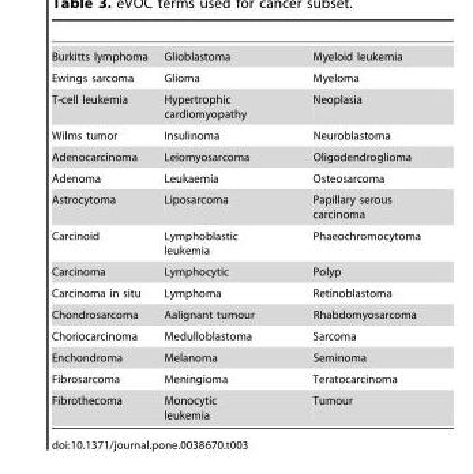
<table><tbody><tr><td>Burkitts lymphoma</td><td>Glioblastoma</td><td>Myeloid leukemia</td></tr><tr><td>Ewings sarcoma</td><td>Glioma</td><td>Myeloma</td></tr><tr><td>T-cell leukemia</td><td>Hypertrophic cardiomyopathy</td><td>Neoplasia</td></tr><tr><td>Wilms tumor</td><td>Insulinoma</td><td>Neuroblastoma</td></tr><tr><td>Adenocarcinoma</td><td>Leiomyosarcoma</td><td>Oligodendroglioma</td></tr><tr><td>Adenoma</td><td>Leukaemia</td><td>Osteosarcoma</td></tr><tr><td>Astrocytoma</td><td>Liposarcoma</td><td>Papillary serous carcinoma</td></tr><tr><td>Carcinoid</td><td>Lymphoblastic leukemia</td><td>Phaeochromocytoma</td></tr><tr><td>Carcinoma</td><td>Lymphocytic</td><td>Polyp</td></tr><tr><td>Carcinoma in situ</td><td>Lymphoma</td><td>Retinoblastoma</td></tr><tr><td>Chondrosarcoma</td><td>Aalignant tumour</td><td>Rhabdomyosarcoma</td></tr><tr><td>Choriocarcinoma</td><td>Medulloblastoma</td><td>Sarcoma</td></tr><tr><td>Enchondroma</td><td>Melanoma</td><td>Seminoma</td></tr><tr><td>Fibrosarcoma</td><td>Meningioma</td><td>Teratocarcinoma</td></tr><tr><td>Fibrothecoma</td><td>Monocytic leukemia</td><td>Tumour</td></tr></tbody></table>